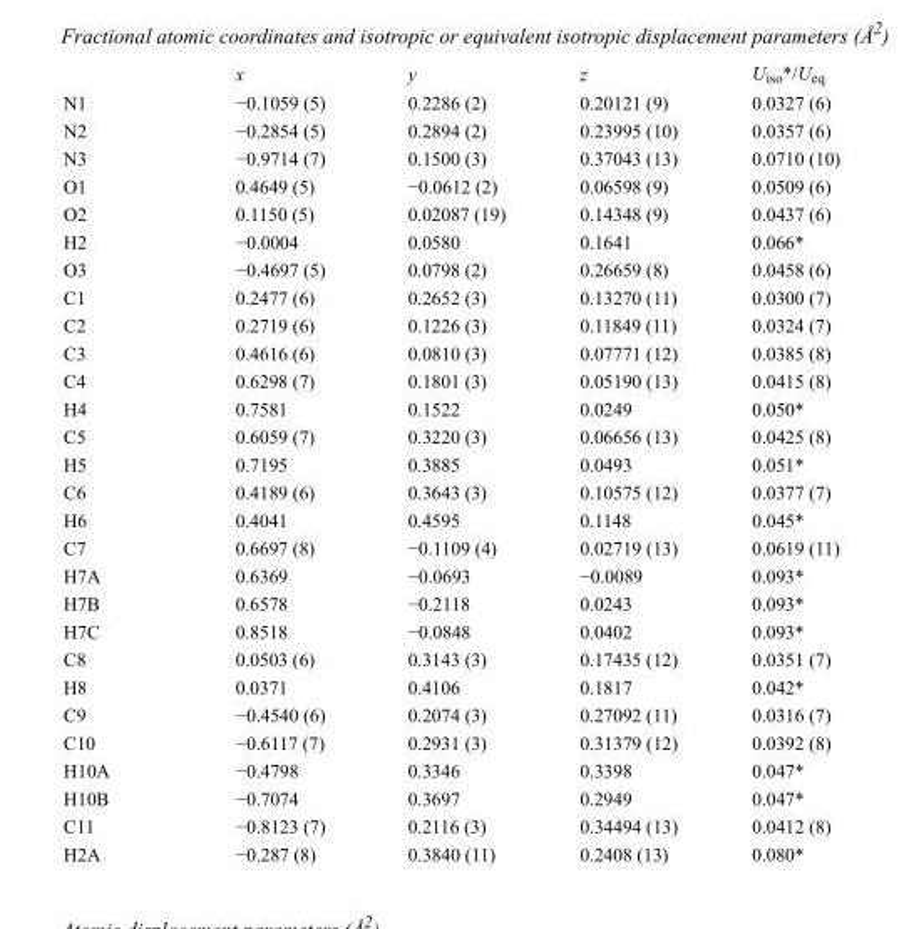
<table><thead><tr><td></td><td>x</td><td>y</td><td>z</td><td>U<sub>iso</sub>*/U<sub>eq</sub></td></tr></thead><tbody><tr><td>N1</td><td>−0.1059 (5)</td><td>0.2286 (2)</td><td>0.20121 (9)</td><td>0.0327 (6)</td></tr><tr><td>N2</td><td>−0.2854 (5)</td><td>0.2894 (2)</td><td>0.23995 (10)</td><td>0.0357 (6)</td></tr><tr><td>N3</td><td>−0.9714 (7)</td><td>0.1500 (3)</td><td>0.37043 (13)</td><td>0.0710 (10)</td></tr><tr><td>O1</td><td>0.4649 (5)</td><td>−0.0612 (2)</td><td>0.06598 (9)</td><td>0.0509 (6)</td></tr><tr><td>O2</td><td>0.1150 (5)</td><td>0.02087 (19)</td><td>0.14348 (9)</td><td>0.0437 (6)</td></tr><tr><td>H2</td><td>−0.0004</td><td>0.0580</td><td>0.1641</td><td>0.066*</td></tr><tr><td>O3</td><td>−0.4697 (5)</td><td>0.0798 (2)</td><td>0.26659 (8)</td><td>0.0458 (6)</td></tr><tr><td>C1</td><td>0.2477 (6)</td><td>0.2652 (3)</td><td>0.13270 (11)</td><td>0.0300 (7)</td></tr><tr><td>C2</td><td>0.2719 (6)</td><td>0.1226 (3)</td><td>0.11849 (11)</td><td>0.0324 (7)</td></tr><tr><td>C3</td><td>0.4616 (6)</td><td>0.0810 (3)</td><td>0.07771 (12)</td><td>0.0385 (8)</td></tr><tr><td>C4</td><td>0.6298 (7)</td><td>0.1801 (3)</td><td>0.05190 (13)</td><td>0.0415 (8)</td></tr><tr><td>H4</td><td>0.7581</td><td>0.1522</td><td>0.0249</td><td>0.050*</td></tr><tr><td>C5</td><td>0.6059 (7)</td><td>0.3220 (3)</td><td>0.06656 (13)</td><td>0.0425 (8)</td></tr><tr><td>H5</td><td>0.7195</td><td>0.3885</td><td>0.0493</td><td>0.051*</td></tr><tr><td>C6</td><td>0.4189 (6)</td><td>0.3643 (3)</td><td>0.10575 (12)</td><td>0.0377 (7)</td></tr><tr><td>H6</td><td>0.4041</td><td>0.4595</td><td>0.1148</td><td>0.045*</td></tr><tr><td>C7</td><td>0.6697 (8)</td><td>−0.1109 (4)</td><td>0.02719 (13)</td><td>0.0619 (11)</td></tr><tr><td>H7A</td><td>0.6369</td><td>−0.0693</td><td>−0.0089</td><td>0.093*</td></tr><tr><td>H7B</td><td>0.6578</td><td>−0.2118</td><td>0.0243</td><td>0.093*</td></tr><tr><td>H7C</td><td>0.8518</td><td>−0.0848</td><td>0.0402</td><td>0.093*</td></tr><tr><td>C8</td><td>0.0503 (6)</td><td>0.3143 (3)</td><td>0.17435 (12)</td><td>0.0351 (7)</td></tr><tr><td>H8</td><td>0.0371</td><td>0.4106</td><td>0.1817</td><td>0.042*</td></tr><tr><td>C9</td><td>−0.4540 (6)</td><td>0.2074 (3)</td><td>0.27092 (11)</td><td>0.0316 (7)</td></tr><tr><td>C10</td><td>−0.6117 (7)</td><td>0.2931 (3)</td><td>0.31379 (12)</td><td>0.0392 (8)</td></tr><tr><td>H10A</td><td>−0.4798</td><td>0.3346</td><td>0.3398</td><td>0.047*</td></tr><tr><td>H10B</td><td>−0.7074</td><td>0.3697</td><td>0.2949</td><td>0.047*</td></tr><tr><td>C11</td><td>−0.8123 (7)</td><td>0.2116 (3)</td><td>0.34494 (13)</td><td>0.0412 (8)</td></tr><tr><td>H2A</td><td>−0.287 (8)</td><td>0.3840 (11)</td><td>0.2408 (13)</td><td>0.080*</td></tr></tbody></table>